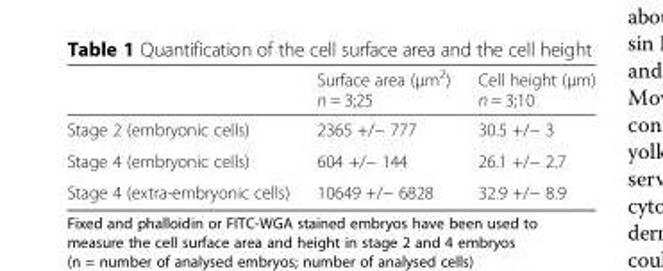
<table><thead><tr><td></td><td>Surface area (μm<sup>2</sup>) n = 3;25</td><td>Cell height (μm) n = 3;10</td></tr></thead><tbody><tr><td>Stage 2 (embryonic cells)</td><td>2365 +/− 777</td><td>30.5 +/− 3</td></tr><tr><td>Stage 4 (embryonic cells)</td><td>604 +/− 144</td><td>26.1 +/− 2.7</td></tr><tr><td>Stage 4 (extra-embryonic cells)</td><td>10649 +/− 6828</td><td>32.9 +/− 8.9</td></tr></tbody></table>